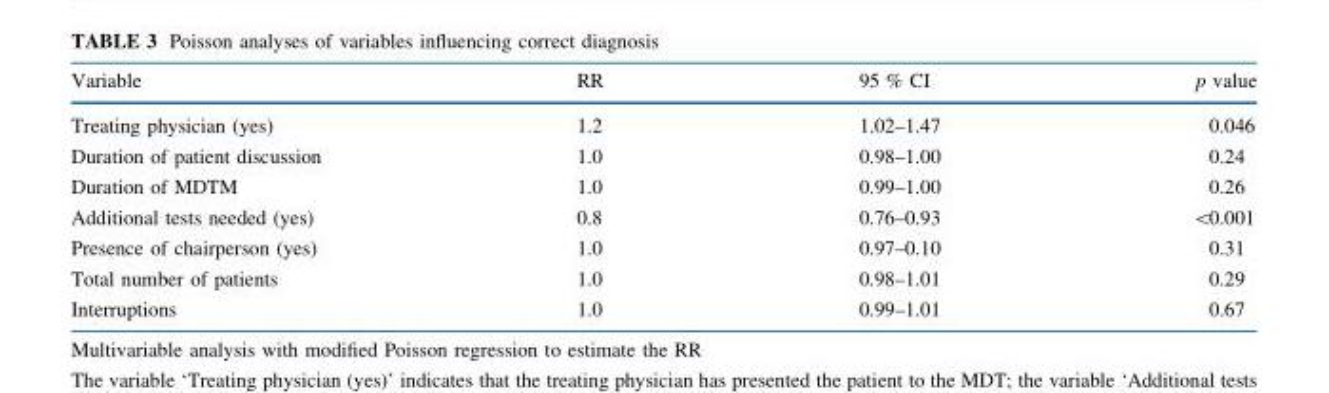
<table><thead><tr><td>Variable</td><td>RR</td><td>95 % CI</td><td>p value</td></tr></thead><tbody><tr><td>Treating physician (yes)</td><td>1.2</td><td>1.02–1.47</td><td>0.046</td></tr><tr><td>Duration of patient discussion</td><td>1.0</td><td>0.98–1.00</td><td>0.24</td></tr><tr><td>Duration of MDTM</td><td>1.0</td><td>0.99–1.00</td><td>0.26</td></tr><tr><td>Additional tests needed (yes)</td><td>0.8</td><td>0.76–0.93</td><td>&lt;0.001</td></tr><tr><td>Presence of chairperson (yes)</td><td>1.0</td><td>0.97–0.10</td><td>0.31</td></tr><tr><td>Total number of patients</td><td>1.0</td><td>0.98–1.01</td><td>0.29</td></tr><tr><td>Interruptions</td><td>1.0</td><td>0.99–1.01</td><td>0.67</td></tr></tbody></table>